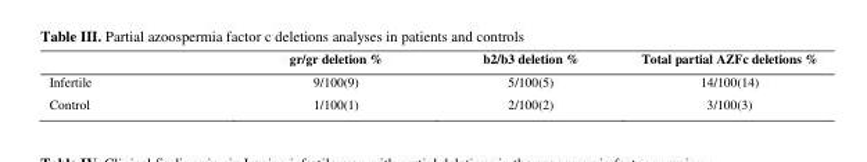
<table><thead><tr><td></td><td>gr/gr deletion %</td><td>b2/b3 deletion %</td><td>Total partial AZFc deletions %</td></tr></thead><tbody><tr><td>Infertile</td><td>9/100(9)</td><td>5/100(5)</td><td>14/100(14)</td></tr><tr><td>Control</td><td>1/100(1)</td><td>2/100(2)</td><td>3/100(3)</td></tr></tbody></table>